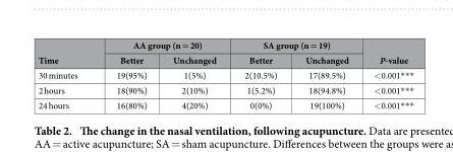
<table><thead><tr><td rowspan="2">Time</td><td colspan="2">AA group (n = 20)</td><td colspan="2">SA group (n = 19)</td><td rowspan="2">P-value</td></tr><tr><td>Better</td><td>Unchanged</td><td>Better</td><td>Unchanged</td></tr></thead><tbody><tr><td>30 minutes</td><td>19(95%)</td><td>1(5%)</td><td>2(10.5%)</td><td>17(89.5%)</td><td>&lt; 0.001* * *</td></tr><tr><td>2 hours</td><td>18(90%)</td><td>2(10%)</td><td>1(5.2%)</td><td>18(94.8%)</td><td>&lt; 0.001* * *</td></tr><tr><td>24 hours</td><td>16(80%)</td><td>4(20%)</td><td>0(0%)</td><td>19(100%)</td><td>&lt; 0.001* * *</td></tr></tbody></table>